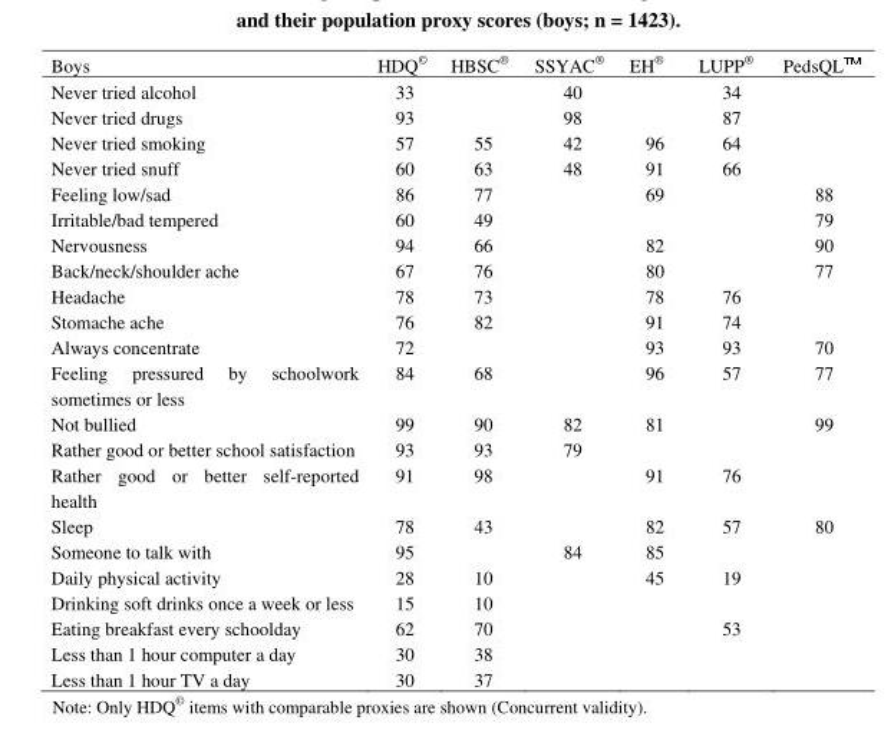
<table><thead><tr><td>Boys</td><td>HDQ<sup>©</sup></td><td>HBSC<sup>®</sup></td><td>SSYAC<sup>®</sup></td><td>EH<sup>®</sup></td><td>LUPP<sup>®</sup></td><td>PedsQL</td></tr></thead><tbody><tr><td>Never tried alcohol</td><td>33</td><td></td><td>40</td><td></td><td>34</td><td></td></tr><tr><td>Never tried drugs</td><td>93</td><td></td><td>98</td><td></td><td>87</td><td></td></tr><tr><td>Never tried smoking</td><td>57</td><td>55</td><td>42</td><td>96</td><td>64</td><td></td></tr><tr><td>Never tried snuff</td><td>60</td><td>63</td><td>48</td><td>91</td><td>66</td><td></td></tr><tr><td>Feeling low/sad</td><td>86</td><td>77</td><td></td><td>69</td><td></td><td>88</td></tr><tr><td>Irritable/bad tempered</td><td>60</td><td>49</td><td></td><td></td><td></td><td>79</td></tr><tr><td>Nervousness</td><td>94</td><td>66</td><td></td><td>82</td><td></td><td>90</td></tr><tr><td>Back/neck/shoulder ache</td><td>67</td><td>76</td><td></td><td>80</td><td></td><td>77</td></tr><tr><td>Headache</td><td>78</td><td>73</td><td></td><td>78</td><td>76</td><td></td></tr><tr><td>Stomache ache</td><td>76</td><td>82</td><td></td><td>91</td><td>74</td><td></td></tr><tr><td>Always concentrate</td><td>72</td><td></td><td></td><td>93</td><td>93</td><td>70</td></tr><tr><td>Feeling pressured by schoolwork sometimes or less</td><td>84</td><td>68</td><td></td><td>96</td><td>57</td><td>77</td></tr><tr><td>Not bullied</td><td>99</td><td>90</td><td>82</td><td>81</td><td></td><td>99</td></tr><tr><td>Rather good or better school satisfaction</td><td>93</td><td>93</td><td>79</td><td></td><td></td><td></td></tr><tr><td>Rather good or better self-reported health</td><td>91</td><td>98</td><td></td><td>91</td><td>76</td><td></td></tr><tr><td>Sleep</td><td>78</td><td>43</td><td></td><td>82</td><td>57</td><td>80</td></tr><tr><td>Someone to talk with</td><td>95</td><td></td><td>84</td><td>85</td><td></td><td></td></tr><tr><td>Daily physical activity</td><td>28</td><td>10</td><td></td><td>45</td><td>19</td><td></td></tr><tr><td>Drinking soft drinks once a week or less</td><td>15</td><td>10</td><td></td><td></td><td></td><td></td></tr><tr><td>Eating breakfast every schoolday</td><td>62</td><td>70</td><td></td><td></td><td>53</td><td></td></tr><tr><td>Less than 1 hour computer a day</td><td>30</td><td>38</td><td></td><td></td><td></td><td></td></tr><tr><td>Less than 1 hour TV a day</td><td>30</td><td>37</td><td></td><td></td><td></td><td></td></tr></tbody></table>